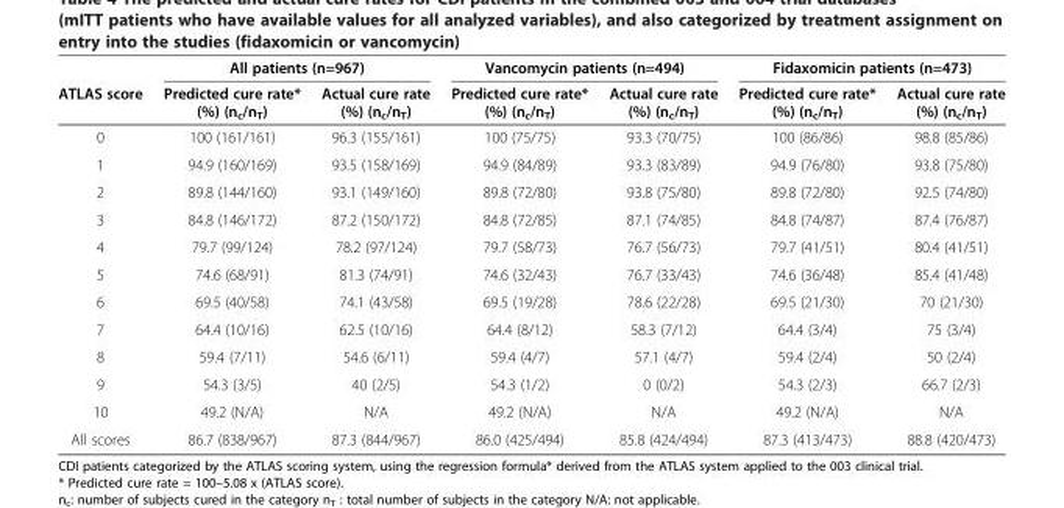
<table><thead><tr><td rowspan="2">ATLAS score</td><td colspan="2">All patients (n=967)</td><td colspan="2">Vancomycin patients (n=494)</td><td colspan="2">Fidaxomicin patients (n=473)</td></tr><tr><td>Predicted cure rate* (%) (n<sub>c</sub>/n<sub>T</sub>)</td><td>Actual cure rate (%) (n<sub>c</sub>/n<sub>T</sub>)</td><td>Predicted cure rate* (%) (n<sub>c</sub>/n<sub>T</sub>)</td><td>Actual cure rate (%) (n<sub>c</sub>/n<sub>T</sub>)</td><td>Predicted cure rate* (%) (n<sub>c</sub>/n<sub>T</sub>)</td><td>Actual cure rate (%) (n<sub>c</sub>/n<sub>T</sub>)</td></tr></thead><tbody><tr><td>0</td><td>100 (161/161)</td><td>96.3 (155/161)</td><td>100 (75/75)</td><td>93.3 (70/75)</td><td>100 (86/86)</td><td>98.8 (85/86)</td></tr><tr><td>1</td><td>94.9 (160/169)</td><td>93.5 (158/169)</td><td>94.9 (84/89)</td><td>93.3 (83/89)</td><td>94.9 (76/80)</td><td>93.8 (75/80)</td></tr><tr><td>2</td><td>89.8 (144/160)</td><td>93.1 (149/160)</td><td>89.8 (72/80)</td><td>93.8 (75/80)</td><td>89.8 (72/80)</td><td>92.5 (74/80)</td></tr><tr><td>3</td><td>84.8 (146/172)</td><td>87.2 (150/172)</td><td>84.8 (72/85)</td><td>87.1 (74/85)</td><td>84.8 (74/87)</td><td>87.4 (76/87)</td></tr><tr><td>4</td><td>79.7 (99/124)</td><td>78.2 (97/124)</td><td>79.7 (58/73)</td><td>76.7 (56/73)</td><td>79.7 (41/51)</td><td>80.4 (41/51)</td></tr><tr><td>5</td><td>74.6 (68/91)</td><td>81.3 (74/91)</td><td>74.6 (32/43)</td><td>76.7 (33/43)</td><td>74.6 (36/48)</td><td>85.4 (41/48)</td></tr><tr><td>6</td><td>69.5 (40/58)</td><td>74.1 (43/58)</td><td>69.5 (19/28)</td><td>78.6 (22/28)</td><td>69.5 (21/30)</td><td>70 (21/30)</td></tr><tr><td>7</td><td>64.4 (10/16)</td><td>62.5 (10/16)</td><td>64.4 (8/12)</td><td>58.3 (7/12)</td><td>64.4 (3/4)</td><td>75 (3/4)</td></tr><tr><td>8</td><td>59.4 (7/11)</td><td>54.6 (6/11)</td><td>59.4 (4/7)</td><td>57.1 (4/7)</td><td>59.4 (2/4)</td><td>50 (2/4)</td></tr><tr><td>9</td><td>54.3 (3/5)</td><td>40 (2/5)</td><td>54.3 (1/2)</td><td>0 (0/2)</td><td>54.3 (2/3)</td><td>66.7 (2/3)</td></tr><tr><td>10</td><td>49.2 (N/A)</td><td>N/A</td><td>49.2 (N/A)</td><td>N/A</td><td>49.2 (N/A)</td><td>N/A</td></tr><tr><td>All scores</td><td>86.7 (838/967)</td><td>87.3 (844/967)</td><td>86.0 (425/494)</td><td>85.8 (424/494)</td><td>87.3 (413/473)</td><td>88.8 (420/473)</td></tr></tbody></table>